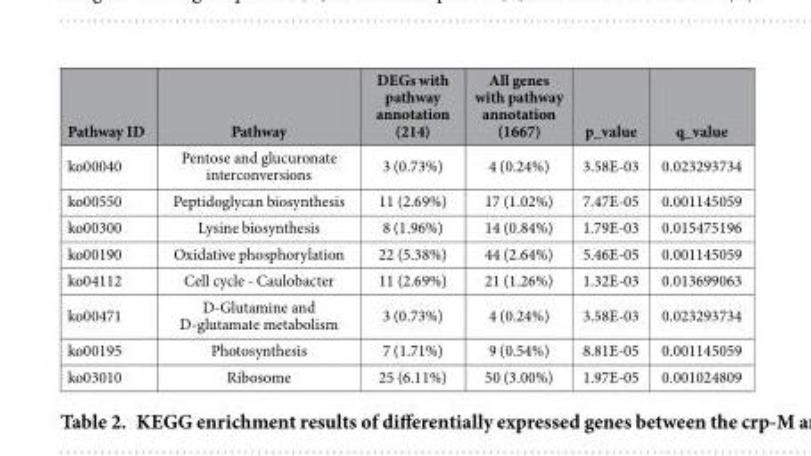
<table><thead><tr><td>Pathway ID</td><td>Pathway</td><td>DEGs with pathway annotation (214)</td><td>All genes with pathway annotation (1667)</td><td>p_value</td><td>q_value</td></tr></thead><tbody><tr><td>ko00040</td><td>Pentose and glucuronate interconversions</td><td>3 (0.73%)</td><td>4 (0.24%)</td><td>3.58E-03</td><td>0.023293734</td></tr><tr><td>ko00550</td><td>Peptidoglycan biosynthesis</td><td>11 (2.69%)</td><td>17 (1.02%)</td><td>7.47E-05</td><td>0.001145059</td></tr><tr><td>ko00300</td><td>Lysine biosynthesis</td><td>8 (1.96%)</td><td>14 (0.84%)</td><td>1.79E-03</td><td>0.015475196</td></tr><tr><td>ko00190</td><td>Oxidative phosphorylation</td><td>22 (5.38%)</td><td>44 (2.64%)</td><td>5.46E-05</td><td>0.001145059</td></tr><tr><td>ko04112</td><td>Cell cycle - Caulobacter</td><td>11 (2.69%)</td><td>21 (1.26%)</td><td>1.32E-03</td><td>0.013699063</td></tr><tr><td>ko00471</td><td>D-Glutamine and D-glutamate metabolism</td><td>3 (0.73%)</td><td>4 (0.24%)</td><td>3.58E-03</td><td>0.023293734</td></tr><tr><td>ko00195</td><td>Photosynthesis</td><td>7 (1.71%)</td><td>9 (0.54%)</td><td>8.81E-05</td><td>0.001145059</td></tr><tr><td>ko03010</td><td>Ribosome</td><td>25 (6.11%)</td><td>50 (3.00%)</td><td>1.97E-05</td><td>0.001024809</td></tr></tbody></table>